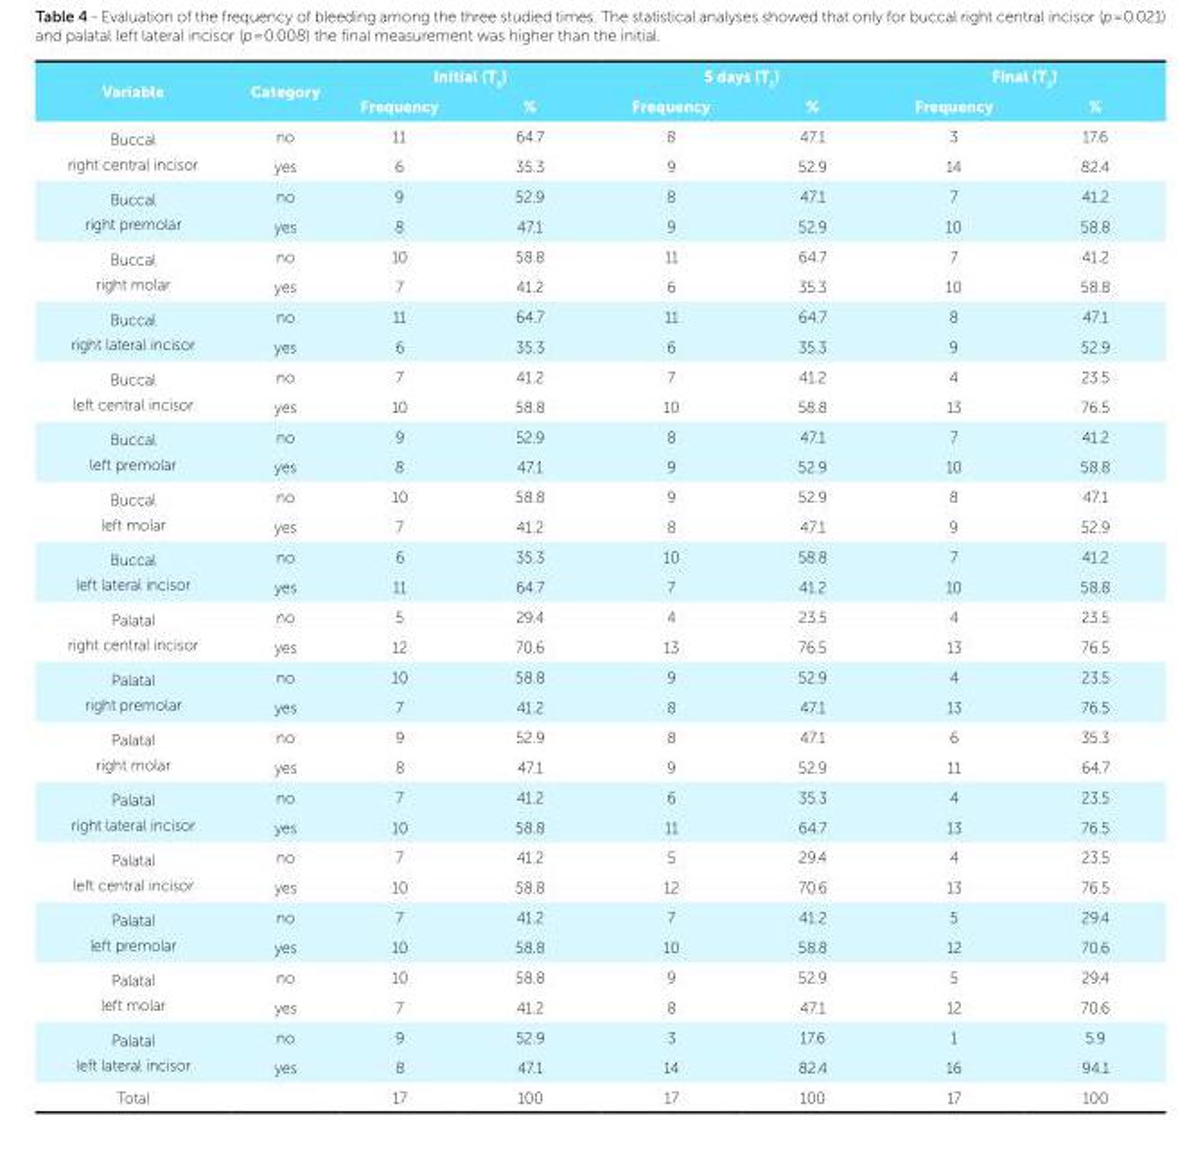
<table><tbody><tr><td rowspan="2">Variable</td><td rowspan="2">Category</td><td colspan="2">Initial (T<sub>0</sub>)</td><td colspan="2">5 days (T<sub>1</sub>)</td><td colspan="2">Final (T<sub>2</sub>)</td></tr><tr><td>Frequency</td><td>%</td><td>Frequency</td><td>%</td><td>Frequency</td><td>%</td></tr><tr><td rowspan="2">Buccal right central incisor</td><td>no</td><td>11</td><td>64.7</td><td>8</td><td>47.1</td><td>3</td><td>17.6</td></tr><tr><td>yes</td><td>6</td><td>35.3</td><td>9</td><td>52.9</td><td>14</td><td>82.4</td></tr><tr><td rowspan="2">Buccal right premolar</td><td>no</td><td>9</td><td>52.9</td><td>8</td><td>47.1</td><td>7</td><td>41.2</td></tr><tr><td>yes</td><td>8</td><td>47.1</td><td>9</td><td>52.9</td><td>10</td><td>58.8</td></tr><tr><td rowspan="2">Buccal right molar</td><td>no</td><td>10</td><td>58.8</td><td>11</td><td>64.7</td><td>7</td><td>41.2</td></tr><tr><td>yes</td><td>7</td><td>41.2</td><td>6</td><td>35.3</td><td>10</td><td>58.8</td></tr><tr><td rowspan="2">Buccal right lateral incisor</td><td>no</td><td>11</td><td>64.7</td><td>11</td><td>64.7</td><td>8</td><td>47.1</td></tr><tr><td>yes</td><td>6</td><td>35.3</td><td>6</td><td>35.3</td><td>9</td><td>52.9</td></tr><tr><td rowspan="2">Buccal left central incisor</td><td>no</td><td>7</td><td>41.2</td><td>7</td><td>41.2</td><td>4</td><td>23.5</td></tr><tr><td>yes</td><td>10</td><td>58.8</td><td>10</td><td>58.8</td><td>13</td><td>76.5</td></tr><tr><td rowspan="2">Buccal left premolar</td><td>no</td><td>9</td><td>52.9</td><td>8</td><td>47.1</td><td>7</td><td>41.2</td></tr><tr><td>yes</td><td>8</td><td>47.1</td><td>9</td><td>52.9</td><td>10</td><td>58.8</td></tr><tr><td rowspan="2">Buccal left molar</td><td>no</td><td>10</td><td>58.8</td><td>9</td><td>52.9</td><td>8</td><td>47.1</td></tr><tr><td>yes</td><td>7</td><td>41.2</td><td>8</td><td>47.1</td><td>9</td><td>52.9</td></tr><tr><td rowspan="2">Buccal left lateral incisor</td><td>no</td><td>6</td><td>35.3</td><td>10</td><td>58.8</td><td>7</td><td>41.2</td></tr><tr><td>yes</td><td>11</td><td>64.7</td><td>7</td><td>41.2</td><td>10</td><td>58.8</td></tr><tr><td rowspan="2">Palatal right central incisor</td><td>no</td><td>5</td><td>29.4</td><td>4</td><td>23.5</td><td>4</td><td>23.5</td></tr><tr><td>yes</td><td>12</td><td>70.6</td><td>13</td><td>76.5</td><td>13</td><td>76.5</td></tr><tr><td rowspan="2">Palatal right premolar</td><td>no</td><td>10</td><td>58.8</td><td>9</td><td>52.9</td><td>4</td><td>23.5</td></tr><tr><td>yes</td><td>7</td><td>41.2</td><td>8</td><td>47.1</td><td>13</td><td>76.5</td></tr><tr><td rowspan="2">Palatal right molar</td><td>no</td><td>9</td><td>52.9</td><td>8</td><td>47.1</td><td>6</td><td>35.3</td></tr><tr><td>yes</td><td>8</td><td>47.1</td><td>9</td><td>52.9</td><td>11</td><td>64.7</td></tr><tr><td rowspan="2">Palatal right lateral incisor</td><td>no</td><td>7</td><td>41.2</td><td>6</td><td>35.3</td><td>4</td><td>23.5</td></tr><tr><td>yes</td><td>10</td><td>58.8</td><td>11</td><td>64.7</td><td>13</td><td>76.5</td></tr><tr><td rowspan="2">Palatal left central incisor</td><td>no</td><td>7</td><td>41.2</td><td>5</td><td>29.4</td><td>4</td><td>23.5</td></tr><tr><td>yes</td><td>10</td><td>58.8</td><td>12</td><td>70.6</td><td>13</td><td>76.5</td></tr><tr><td rowspan="2">Palatal left premolar</td><td>no</td><td>7</td><td>41.2</td><td>7</td><td>41.2</td><td>5</td><td>29.4</td></tr><tr><td>yes</td><td>10</td><td>58.8</td><td>10</td><td>58.8</td><td>12</td><td>70.6</td></tr><tr><td rowspan="2">Palatal left molar</td><td>no</td><td>10</td><td>58.8</td><td>9</td><td>52.9</td><td>5</td><td>29.4</td></tr><tr><td>yes</td><td>7</td><td>41.2</td><td>8</td><td>47.1</td><td>12</td><td>70.6</td></tr><tr><td rowspan="2">Palatal left lateral incisor</td><td>no</td><td>9</td><td>52.9</td><td>3</td><td>17.6</td><td>1</td><td>5.9</td></tr><tr><td>yes</td><td>8</td><td>47.1</td><td>14</td><td>82.4</td><td>16</td><td>94.1</td></tr><tr><td>Total</td><td></td><td>17</td><td>100</td><td>17</td><td>100</td><td>17</td><td>100</td></tr></tbody></table>